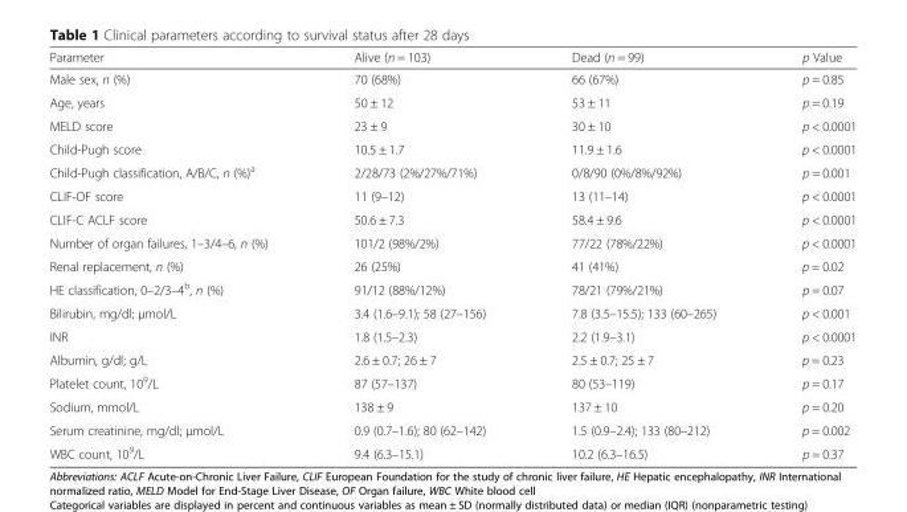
<table><thead><tr><td>Parameter</td><td>Alive (n = 103)</td><td>Dead (n = 99)</td><td>p Value</td></tr></thead><tbody><tr><td>Male sex, n (%)</td><td>70 (68%)</td><td>66 (67%)</td><td>p = 0.85</td></tr><tr><td>Age, years</td><td>50 ± 12</td><td>53 ± 11</td><td>p = 0.19</td></tr><tr><td>MELD score</td><td>23 ± 9</td><td>30 ± 10</td><td>p &lt; 0.0001</td></tr><tr><td>Child-Pugh score</td><td>10.5 ± 1.7</td><td>11.9 ± 1.6</td><td>p &lt; 0.0001</td></tr><tr><td>Child-Pugh classification, A/B/C, n (%)<sup>a</sup></td><td>2/28/73 (2%/27%/71%)</td><td>0/8/90 (0%/8%/92%)</td><td>p = 0.001</td></tr><tr><td>CLIF-OF score</td><td>11 (9–12)</td><td>13 (11–14)</td><td>p &lt; 0.0001</td></tr><tr><td>CLIF-C ACLF score</td><td>50.6 ± 7.3</td><td>58.4 ± 9.6</td><td>p &lt; 0.0001</td></tr><tr><td>Number of organ failures, 1–3/4–6, n (%)</td><td>101/2 (98%/2%)</td><td>77/22 (78%/22%)</td><td>p &lt; 0.0001</td></tr><tr><td>Renal replacement, n (%)</td><td>26 (25%)</td><td>41 (41%)</td><td>p = 0.02</td></tr><tr><td>HE classification, 0–2/3–4<sup>b</sup>, n (%)</td><td>91/12 (88%/12%)</td><td>78/21 (79%/21%)</td><td>p = 0.07</td></tr><tr><td>Bilirubin, mg/dl; μmol/L</td><td>3.4 (1.6–9.1); 58 (27–156)</td><td>7.8 (3.5–15.5); 133 (60–265)</td><td>p &lt; 0.001</td></tr><tr><td>INR</td><td>1.8 (1.5–2.3)</td><td>2.2 (1.9–3.1)</td><td>p &lt; 0.0001</td></tr><tr><td>Albumin, g/dl; g/L</td><td>2.6 ± 0.7; 26 ± 7</td><td>2.5 ± 0.7; 25 ± 7</td><td>p = 0.23</td></tr><tr><td>Platelet count, 10<sup>9</sup>/L</td><td>87 (57–137)</td><td>80 (53–119)</td><td>p = 0.17</td></tr><tr><td>Sodium, mmol/L</td><td>138 ± 9</td><td>137 ± 10</td><td>p = 0.20</td></tr><tr><td>Serum creatinine, mg/dl; μmol/L</td><td>0.9 (0.7–1.6); 80 (62–142)</td><td>1.5 (0.9–2.4); 133 (80–212)</td><td>p = 0.002</td></tr><tr><td>WBC count, 10<sup>9</sup>/L</td><td>9.4 (6.3–15.1)</td><td>10.2 (6.3–16.5)</td><td>p = 0.37</td></tr></tbody></table>